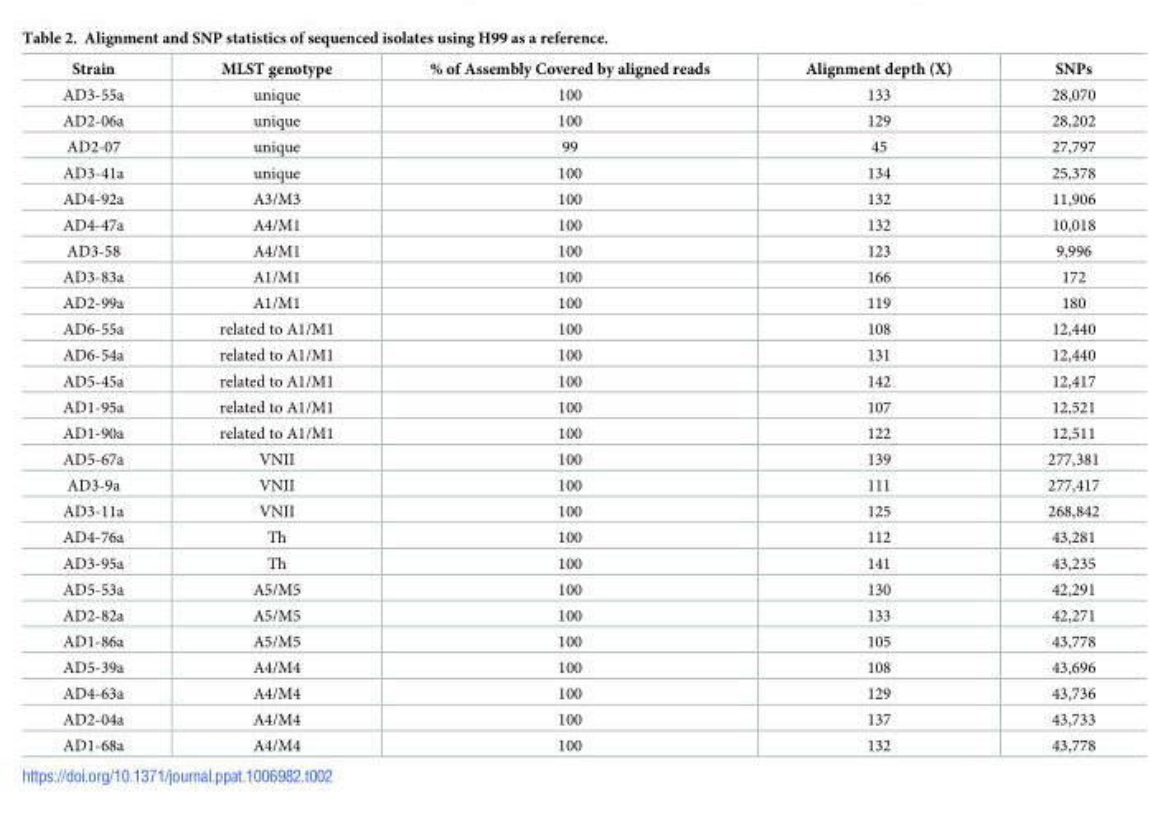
<table><thead><tr><td>Strain</td><td>MLST genotype</td><td>% of Assembly Covered by aligned reads</td><td>Alignment depth (X)</td><td>SNPs</td></tr></thead><tbody><tr><td>AD3-55a</td><td>unique</td><td>100</td><td>133</td><td>28,070</td></tr><tr><td>AD2-06a</td><td>unique</td><td>100</td><td>129</td><td>28,202</td></tr><tr><td>AD2-07</td><td>unique</td><td>99</td><td>45</td><td>27,797</td></tr><tr><td>AD3-41a</td><td>unique</td><td>100</td><td>134</td><td>25,378</td></tr><tr><td>AD4-92a</td><td>A3/M3</td><td>100</td><td>132</td><td>11,906</td></tr><tr><td>AD4-47a</td><td>A4/M1</td><td>100</td><td>132</td><td>10,018</td></tr><tr><td>AD3-58</td><td>A4/M1</td><td>100</td><td>123</td><td>9,996</td></tr><tr><td>AD3-83a</td><td>A1/M1</td><td>100</td><td>166</td><td>172</td></tr><tr><td>AD2-99a</td><td>A1/M1</td><td>100</td><td>119</td><td>180</td></tr><tr><td>AD6-55a</td><td>related to A1/M1</td><td>100</td><td>108</td><td>12,440</td></tr><tr><td>AD6-54a</td><td>related to A1/M1</td><td>100</td><td>131</td><td>12,440</td></tr><tr><td>AD5-45a</td><td>related to A1/M1</td><td>100</td><td>142</td><td>12,417</td></tr><tr><td>AD1-95a</td><td>related to A1/M1</td><td>100</td><td>107</td><td>12,521</td></tr><tr><td>AD1-90a</td><td>related to A1/M1</td><td>100</td><td>122</td><td>12,511</td></tr><tr><td>AD5-67a</td><td>VNII</td><td>100</td><td>139</td><td>277,381</td></tr><tr><td>AD3-9a</td><td>VNII</td><td>100</td><td>111</td><td>277,417</td></tr><tr><td>AD3-11a</td><td>VNII</td><td>100</td><td>125</td><td>268,842</td></tr><tr><td>AD4-76a</td><td>Th</td><td>100</td><td>112</td><td>43,281</td></tr><tr><td>AD3-95a</td><td>Th</td><td>100</td><td>141</td><td>43,235</td></tr><tr><td>AD5-53a</td><td>A5/M5</td><td>100</td><td>130</td><td>42,291</td></tr><tr><td>AD2-82a</td><td>A5/M5</td><td>100</td><td>133</td><td>42,271</td></tr><tr><td>AD1-86a</td><td>A5/M5</td><td>100</td><td>105</td><td>43,778</td></tr><tr><td>AD5-39a</td><td>A4/M4</td><td>100</td><td>108</td><td>43,696</td></tr><tr><td>AD4-63a</td><td>A4/M4</td><td>100</td><td>129</td><td>43,736</td></tr><tr><td>AD2-04a</td><td>A4/M4</td><td>100</td><td>137</td><td>43,733</td></tr><tr><td>AD1-68a</td><td>A4/M4</td><td>100</td><td>132</td><td>43,778</td></tr></tbody></table>